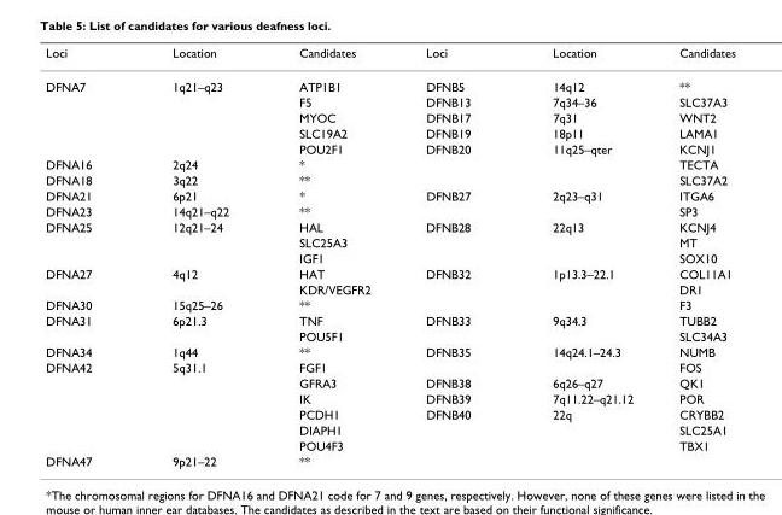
<table><thead><tr><td>Loci</td><td>Location</td><td>Candidates</td><td>Loci</td><td>Location</td><td>Candidates</td></tr></thead><tbody><tr><td rowspan="5">DFNA7</td><td>1q21–q23</td><td>ATP1B1</td><td>DFNB5</td><td>14q12</td><td>**</td></tr><tr><td></td><td>F5</td><td>DFNB13</td><td>7q34–36</td><td>SLC37A3</td></tr><tr><td></td><td>MYOC</td><td>DFNB17</td><td>7q31</td><td>WNT2</td></tr><tr><td></td><td>SLC19A2</td><td>DFNB19</td><td>18p11</td><td>LAMA1</td></tr><tr><td></td><td>POU2F1</td><td>DFNB20</td><td>11q25–qter</td><td>KCNJ1</td></tr><tr><td>DFNA16</td><td>2q24</td><td>*</td><td></td><td></td><td>TECTA</td></tr><tr><td>DFNA18</td><td>3q22</td><td>**</td><td></td><td></td><td>SLC37A2</td></tr><tr><td>DFNA21</td><td>6p21</td><td>*</td><td>DFNB27</td><td>2q23–q31</td><td>ITGA6</td></tr><tr><td>DFNA23</td><td>14q21–q22</td><td>**</td><td></td><td></td><td>SP3</td></tr><tr><td rowspan="3">DFNA25</td><td>12q21–24</td><td>HAL</td><td>DFNB28</td><td>22q13</td><td>KCNJ4</td></tr><tr><td></td><td>SLC25A3</td><td></td><td></td><td>MT</td></tr><tr><td></td><td>IGF1</td><td></td><td></td><td>SOX10</td></tr><tr><td rowspan="2">DFNA27</td><td>4q12</td><td>HAT</td><td>DFNB32</td><td>1p13.3–22.1</td><td>COL11A1</td></tr><tr><td></td><td>KDR/VEGFR2</td><td></td><td></td><td>DR1</td></tr><tr><td>DFNA30</td><td>15q25–26</td><td>**</td><td></td><td></td><td>F3</td></tr><tr><td rowspan="2">DFNA31</td><td>6p21.3</td><td>TNF</td><td>DFNB33</td><td>9q34.3</td><td>TUBB2</td></tr><tr><td></td><td>POU5F1</td><td></td><td></td><td>SLC34A3</td></tr><tr><td>DFNA34</td><td>1q44</td><td>**</td><td>DFNB35</td><td>14q24.1–24.3</td><td>NUMB</td></tr><tr><td rowspan="6">DFNA42</td><td>5q31.1</td><td>FGF1</td><td></td><td></td><td>FOS</td></tr><tr><td></td><td>GFRA3</td><td>DFNB38</td><td>6q26–q27</td><td>QK1</td></tr><tr><td></td><td>IK</td><td>DFNB39</td><td>7q11.22–q21.12</td><td>POR</td></tr><tr><td></td><td>PCDH1</td><td>DFNB40</td><td>22q</td><td>CRYBB2</td></tr><tr><td></td><td>DIAPH1</td><td></td><td></td><td>SLC25A1</td></tr><tr><td></td><td>POU4F3</td><td></td><td></td><td>TBX1</td></tr><tr><td>DFNA47</td><td>9p21–22</td><td>**</td><td></td><td></td><td></td></tr></tbody></table>